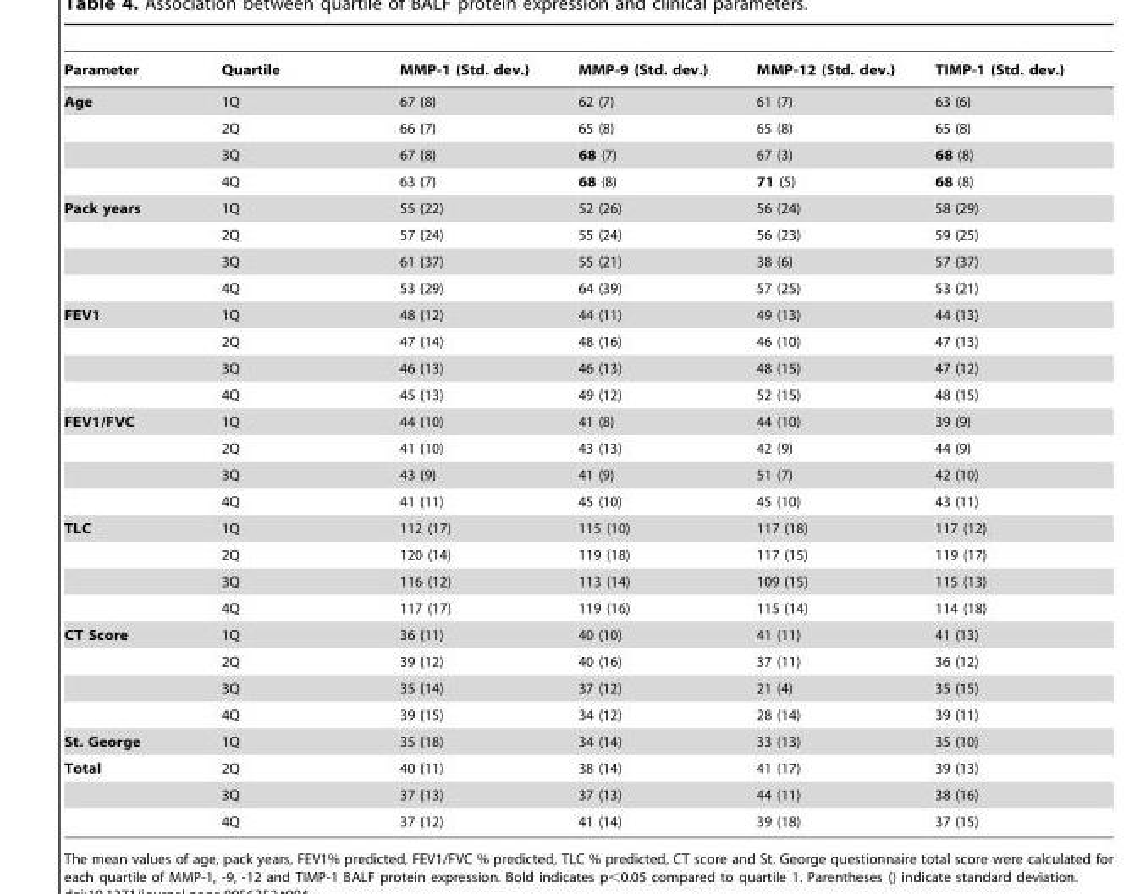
<table><thead><tr><td>Parameter</td><td>Quartile</td><td>MMP-1 (Std. dev.)</td><td>MMP-9 (Std. dev.)</td><td>MMP-12 (Std. dev.)</td><td>TIMP-1 (Std. dev.)</td></tr></thead><tbody><tr><td rowspan="4">Age</td><td>1Q</td><td>67 (8)</td><td>62 (7)</td><td>61 (7)</td><td>63 (6)</td></tr><tr><td>2Q</td><td>66 (7)</td><td>65 (8)</td><td>65 (8)</td><td>65 (8)</td></tr><tr><td>3Q</td><td>67 (8)</td><td>68 (7)</td><td>67 (3)</td><td>68 (8)</td></tr><tr><td>4Q</td><td>63 (7)</td><td>68 (8)</td><td>71 (5)</td><td>68 (8)</td></tr><tr><td rowspan="4">Pack years</td><td>1Q</td><td>55 (22)</td><td>52 (26)</td><td>56 (24)</td><td>58 (29)</td></tr><tr><td>2Q</td><td>57 (24)</td><td>55 (24)</td><td>56 (23)</td><td>59 (25)</td></tr><tr><td>3Q</td><td>61 (37)</td><td>55 (21)</td><td>38 (6)</td><td>57 (37)</td></tr><tr><td>4Q</td><td>53 (29)</td><td>64 (39)</td><td>57 (25)</td><td>53 (21)</td></tr><tr><td rowspan="4">FEV1</td><td>1Q</td><td>48 (12)</td><td>44 (11)</td><td>49 (13)</td><td>44 (13)</td></tr><tr><td>2Q</td><td>47 (14)</td><td>48 (16)</td><td>46 (10)</td><td>47 (13)</td></tr><tr><td>3Q</td><td>46 (13)</td><td>46 (13)</td><td>48 (15)</td><td>47 (12)</td></tr><tr><td>4Q</td><td>45 (13)</td><td>49 (12)</td><td>52 (15)</td><td>48 (15)</td></tr><tr><td rowspan="4">FEV1/FVC</td><td>1Q</td><td>44 (10)</td><td>41 (8)</td><td>44 (10)</td><td>39 (9)</td></tr><tr><td>2Q</td><td>41 (10)</td><td>43 (13)</td><td>42 (9)</td><td>44 (9)</td></tr><tr><td>3Q</td><td>43 (9)</td><td>41 (9)</td><td>51 (7)</td><td>42 (10)</td></tr><tr><td>4Q</td><td>41 (11)</td><td>45 (10)</td><td>45 (10)</td><td>43 (11)</td></tr><tr><td rowspan="4">TLC</td><td>1Q</td><td>112 (17)</td><td>115 (10)</td><td>117 (18)</td><td>117 (12)</td></tr><tr><td>2Q</td><td>120 (14)</td><td>119 (18)</td><td>117 (15)</td><td>119 (17)</td></tr><tr><td>3Q</td><td>116 (12)</td><td>113 (14)</td><td>109 (15)</td><td>115 (13)</td></tr><tr><td>4Q</td><td>117 (17)</td><td>119 (16)</td><td>115 (14)</td><td>114 (18)</td></tr><tr><td rowspan="4">CT Score</td><td>1Q</td><td>36 (11)</td><td>40 (10)</td><td>41 (11)</td><td>41 (13)</td></tr><tr><td>2Q</td><td>39 (12)</td><td>40 (16)</td><td>37 (11)</td><td>36 (12)</td></tr><tr><td>3Q</td><td>35 (14)</td><td>37 (12)</td><td>21 (4)</td><td>35 (15)</td></tr><tr><td>4Q</td><td>39 (15)</td><td>34 (12)</td><td>28 (14)</td><td>39 (11)</td></tr><tr><td>St. George</td><td>1Q</td><td>35 (18)</td><td>34 (14)</td><td>33 (13)</td><td>35 (10)</td></tr><tr><td rowspan="3">Total</td><td>2Q</td><td>40 (11)</td><td>38 (14)</td><td>41 (17)</td><td>39 (13)</td></tr><tr><td>3Q</td><td>37 (13)</td><td>37 (13)</td><td>44 (11)</td><td>38 (16)</td></tr><tr><td>4Q</td><td>37 (12)</td><td>41 (14)</td><td>39 (18)</td><td>37 (15)</td></tr></tbody></table>